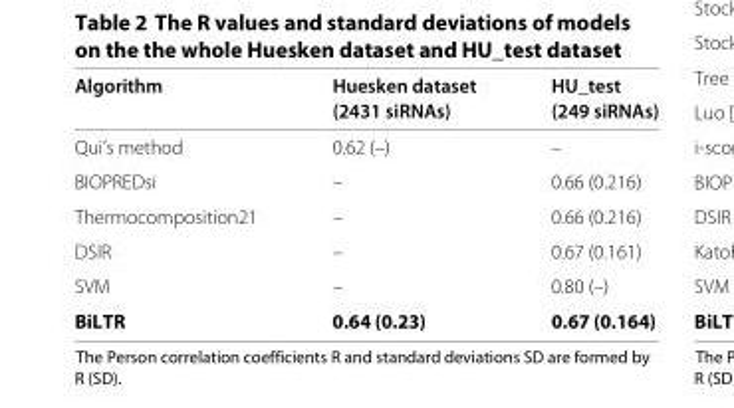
<table><thead><tr><td rowspan="2">Algorithm</td><td rowspan="2">Huesken dataset (2431 siRNAs)</td><td rowspan="2">HU_test (249 siRNAs)</td></tr><tr></tr></thead><tbody><tr><td>Qui’s method</td><td>0.62 (–)</td><td>–</td></tr><tr><td>BIOPREDsi</td><td>–</td><td>0.66 (0.216)</td></tr><tr><td>Thermocomposition21</td><td>–</td><td>0.66 (0.216)</td></tr><tr><td>DSIR</td><td>–</td><td>0.67 (0.161)</td></tr><tr><td>SVM</td><td>–</td><td>0.80 (–)</td></tr><tr><td>BiLTR</td><td>0.64 (0.23)</td><td>0.67 (0.164)</td></tr></tbody></table>